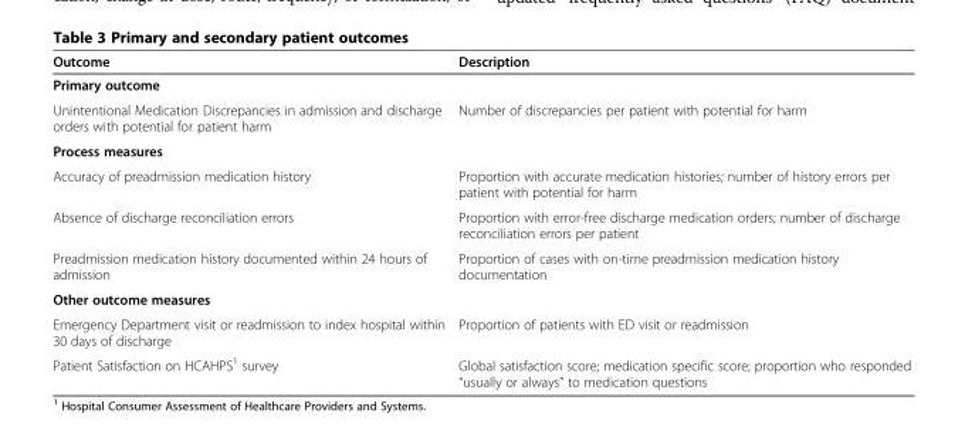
<table><thead><tr><td>Outcome</td><td>Description</td></tr></thead><tbody><tr><td colspan="2">Primary outcome</td></tr><tr><td>Unintentional Medication Discrepancies in admission and discharge orders with potential for patient harm</td><td>Number of discrepancies per patient with potential for harm</td></tr><tr><td colspan="2">Process measures</td></tr><tr><td>Accuracy of preadmission medication history</td><td>Proportion with accurate medication histories; number of history errors per patient with potential for harm</td></tr><tr><td>Absence of discharge reconciliation errors</td><td>Proportion with error-free discharge medication orders; number of discharge reconciliation errors per patient</td></tr><tr><td>Preadmission medication history documented within 24 hours of admission</td><td>Proportion of cases with on-time preadmission medication history documentation</td></tr><tr><td colspan="2">Other outcome measures</td></tr><tr><td>Emergency Department visit or readmission to index hospital within 30 days of discharge</td><td>Proportion of patients with ED visit or readmission</td></tr><tr><td>Patient Satisfaction on HCAHPS<sup>1</sup> survey</td><td>Global satisfaction score; medication specific score; proportion who responded “usually or always” to medication questions</td></tr></tbody></table>